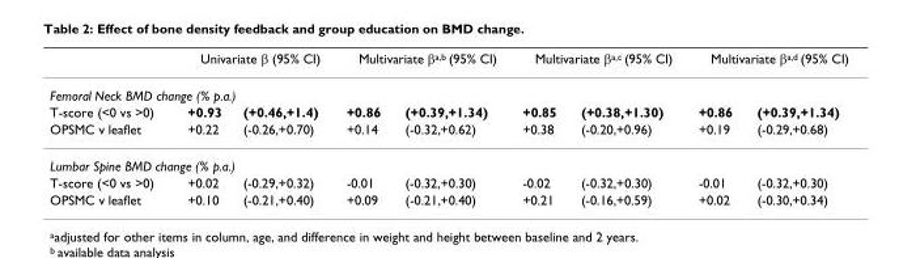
<table><thead><tr><td></td><td colspan="2">Univariate β (95% CI)</td><td colspan="2">Multivariate βa,b (95% CI)</td><td colspan="2">Multivariate βa,c (95% CI)</td><td colspan="2">Multivariate βa,d (95% CI)</td></tr><tr><td colspan="9">Femoral Neck BMD change (% p.a.)</td></tr><tr><td>T-score (&lt;0 vs &gt;0)</td><td>+0.93</td><td>(+0.46,+1.4)</td><td>+0.86</td><td>(+0.39,+1.34)</td><td>+0.85</td><td>(+0.38,+1.30)</td><td>+0.86</td><td>(+0.39,+1.34)</td></tr></thead><tbody><tr><td>OPSMC v leaflet</td><td>+0.22</td><td>(-0.26,+0.70)</td><td>+0.14</td><td>(-0.32,+0.62)</td><td>+0.38</td><td>(-0.20,+0.96)</td><td>+0.19</td><td>(-0.29,+0.68)</td></tr><tr><td colspan="9">Lumbar Spine BMD change (% p.a.)</td></tr><tr><td>T-score (&lt;0 vs &gt;0)</td><td>+0.02</td><td>(-0.29,+0.32)</td><td>-0.01</td><td>(-0.32,+0.30)</td><td>-0.02</td><td>(-0.32,+0.30)</td><td>-0.01</td><td>(-0.32,+0.30)</td></tr><tr><td>OPSMC v leaflet</td><td>+0.10</td><td>(-0.21,+0.40)</td><td>+0.09</td><td>(-0.21,+0.40)</td><td>+0.21</td><td>(-0.16,+0.59)</td><td>+0.02</td><td>(-0.30,+0.34)</td></tr></tbody></table>